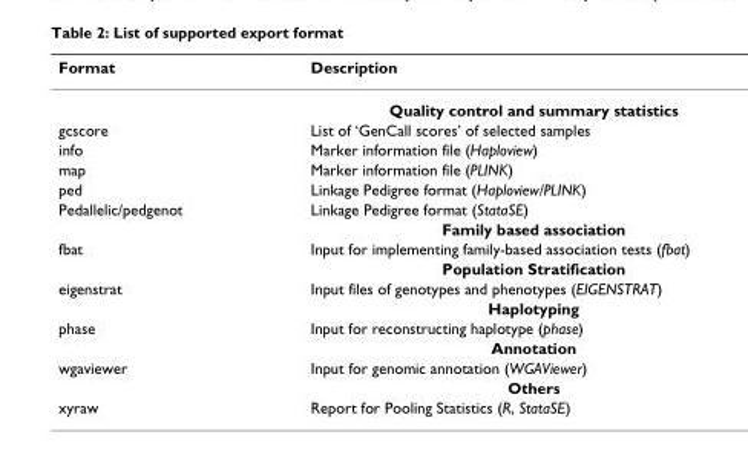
<table><thead><tr><td>Format</td><td>Description</td></tr></thead><tbody><tr><td colspan="2">Quality control and summary statistics</td></tr><tr><td>gcscore</td><td>List of ‘GenCall scores’ of selected samples</td></tr><tr><td>info</td><td>Marker information file (Haploview)</td></tr><tr><td>map</td><td>Marker information file (PLINK)</td></tr><tr><td>ped</td><td>Linkage Pedigree format (Haploview/PLINK)</td></tr><tr><td>Pedallelic/pedgenot</td><td>Linkage Pedigree format (StataSE)</td></tr><tr><td colspan="2">Family based association</td></tr><tr><td>fbat</td><td>Input for implementing family-based association tests (fbat)</td></tr><tr><td colspan="2">Population Stratification</td></tr><tr><td>eigenstrat</td><td>Input files of genotypes and phenotypes (EIGENSTRAT)</td></tr><tr><td colspan="2">Haplotyping</td></tr><tr><td>phase</td><td>Input for reconstructing haplotype (phase)</td></tr><tr><td colspan="2">Annotation</td></tr><tr><td>wgaviewer</td><td>Input for genomic annotation (WGAViewer)</td></tr><tr><td colspan="2">Others</td></tr><tr><td>xyraw</td><td>Report for Pooling Statistics (R, StataSE)</td></tr></tbody></table>